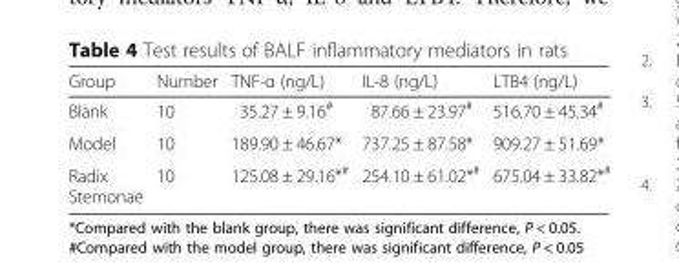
<table><thead><tr><td>Group</td><td>Number</td><td>TNF-α (ng/L)</td><td>IL-8 (ng/L)</td><td>LTB4 (ng/L)</td></tr></thead><tbody><tr><td>Blank</td><td>10</td><td>35.27 ± 9.16<sup>#</sup></td><td>87.66 ± 23.97<sup>#</sup></td><td>516.70 ± 45.34<sup>#</sup></td></tr><tr><td>Model</td><td>10</td><td>189.90 ± 46.67*</td><td>737.25 ± 87.58*</td><td>909.27 ± 51.69*</td></tr><tr><td>Radix Stemonae</td><td>10</td><td>125.08 ± 29.16*<sup>#</sup></td><td>254.10 ± 61.02*<sup>#</sup></td><td>675.04 ± 33.82*<sup>#</sup></td></tr></tbody></table>